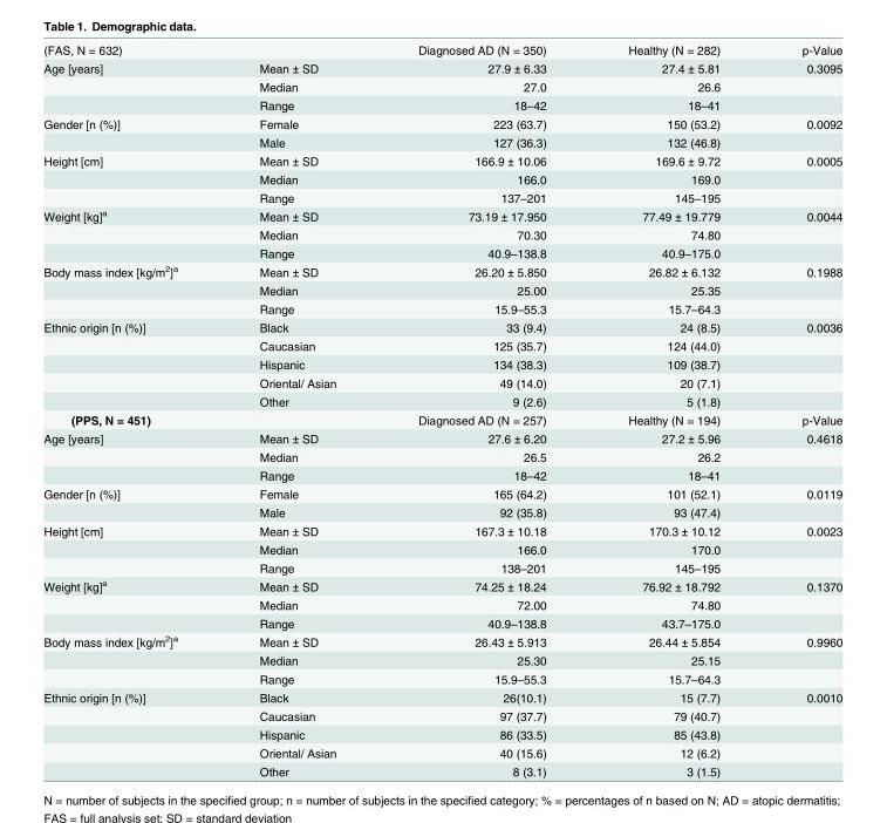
<table><tbody><tr><td>(FAS, N = 632)</td><td></td><td>Diagnosed AD (N = 350)</td><td>Healthy (N = 282)</td><td>p-Value</td></tr><tr><td rowspan="3">Age [years]</td><td>Mean ± SD</td><td>27.9 ± 6.33</td><td>27.4 ± 5.81</td><td>0.3095</td></tr><tr><td>Median</td><td>27.0</td><td>26.6</td><td></td></tr><tr><td>Range</td><td>18–42</td><td>18–41</td><td></td></tr><tr><td rowspan="2">Gender [n (%)]</td><td>Female</td><td>223 (63.7)</td><td>150 (53.2)</td><td>0.0092</td></tr><tr><td>Male</td><td>127 (36.3)</td><td>132 (46.8)</td><td></td></tr><tr><td rowspan="3">Height [cm]</td><td>Mean ± SD</td><td>166.9 ± 10.06</td><td>169.6 ± 9.72</td><td>0.0005</td></tr><tr><td>Median</td><td>166.0</td><td>169.0</td><td></td></tr><tr><td>Range</td><td>137–201</td><td>145–195</td><td></td></tr><tr><td rowspan="3">Weight [kg]<sup>a</sup></td><td>Mean ± SD</td><td>73.19 ± 17.950</td><td>77.49 ± 19.779</td><td>0.0044</td></tr><tr><td>Median</td><td>70.30</td><td>74.80</td><td></td></tr><tr><td>Range</td><td>40.9–138.8</td><td>40.9–175.0</td><td></td></tr><tr><td rowspan="3">Body mass index [kg/m<sup>2</sup>]<sup>a</sup></td><td>Mean ± SD</td><td>26.20 ± 5.850</td><td>26.82 ± 6.132</td><td>0.1988</td></tr><tr><td>Median</td><td>25.00</td><td>25.35</td><td></td></tr><tr><td>Range</td><td>15.9–55.3</td><td>15.7–64.3</td><td></td></tr><tr><td rowspan="5">Ethnic origin [n (%)]</td><td>Black</td><td>33 (9.4)</td><td>24 (8.5)</td><td>0.0036</td></tr><tr><td>Caucasian</td><td>125 (35.7)</td><td>124 (44.0)</td><td></td></tr><tr><td>Hispanic</td><td>134 (38.3)</td><td>109 (38.7)</td><td></td></tr><tr><td>Oriental/ Asian</td><td>49 (14.0)</td><td>20 (7.1)</td><td></td></tr><tr><td>Other</td><td>9 (2.6)</td><td>5 (1.8)</td><td></td></tr><tr><td>(PPS, N = 451)</td><td></td><td>Diagnosed AD (N = 257)</td><td>Healthy (N = 194)</td><td>p-Value</td></tr><tr><td rowspan="3">Age [years]</td><td>Mean ± SD</td><td>27.6 ± 6.20</td><td>27.2 ± 5.96</td><td>0.4618</td></tr><tr><td>Median</td><td>26.5</td><td>26.2</td><td></td></tr><tr><td>Range</td><td>18–42</td><td>18–41</td><td></td></tr><tr><td rowspan="2">Gender [n (%)]</td><td>Female</td><td>165 (64.2)</td><td>101 (52.1)</td><td>0.0119</td></tr><tr><td>Male</td><td>92 (35.8)</td><td>93 (47.4)</td><td></td></tr><tr><td rowspan="3">Height [cm]</td><td>Mean ± SD</td><td>167.3 ± 10.18</td><td>170.3 ± 10.12</td><td>0.0023</td></tr><tr><td>Median</td><td>166.0</td><td>170.0</td><td></td></tr><tr><td>Range</td><td>138–201</td><td>145–195</td><td></td></tr><tr><td rowspan="3">Weight [kg]<sup>a</sup></td><td>Mean ± SD</td><td>74.25 ± 18.24</td><td>76.92 ± 18.792</td><td>0.1370</td></tr><tr><td>Median</td><td>72.00</td><td>74.80</td><td></td></tr><tr><td>Range</td><td>40.9–138.8</td><td>43.7–175.0</td><td></td></tr><tr><td rowspan="3">Body mass index [kg/m<sup>2</sup>]<sup>a</sup></td><td>Mean ± SD</td><td>26.43 ± 5.913</td><td>26.44 ± 5.854</td><td>0.9960</td></tr><tr><td>Median</td><td>25.30</td><td>25.15</td><td></td></tr><tr><td>Range</td><td>15.9–55.3</td><td>15.7–64.3</td><td></td></tr><tr><td rowspan="5">Ethnic origin [n (%)]</td><td>Black</td><td>26(10.1)</td><td>15 (7.7)</td><td>0.0010</td></tr><tr><td>Caucasian</td><td>97 (37.7)</td><td>79 (40.7)</td><td></td></tr><tr><td>Hispanic</td><td>86 (33.5)</td><td>85 (43.8)</td><td></td></tr><tr><td>Oriental/ Asian</td><td>40 (15.6)</td><td>12 (6.2)</td><td></td></tr><tr><td>Other</td><td>8 (3.1)</td><td>3 (1.5)</td><td></td></tr></tbody></table>